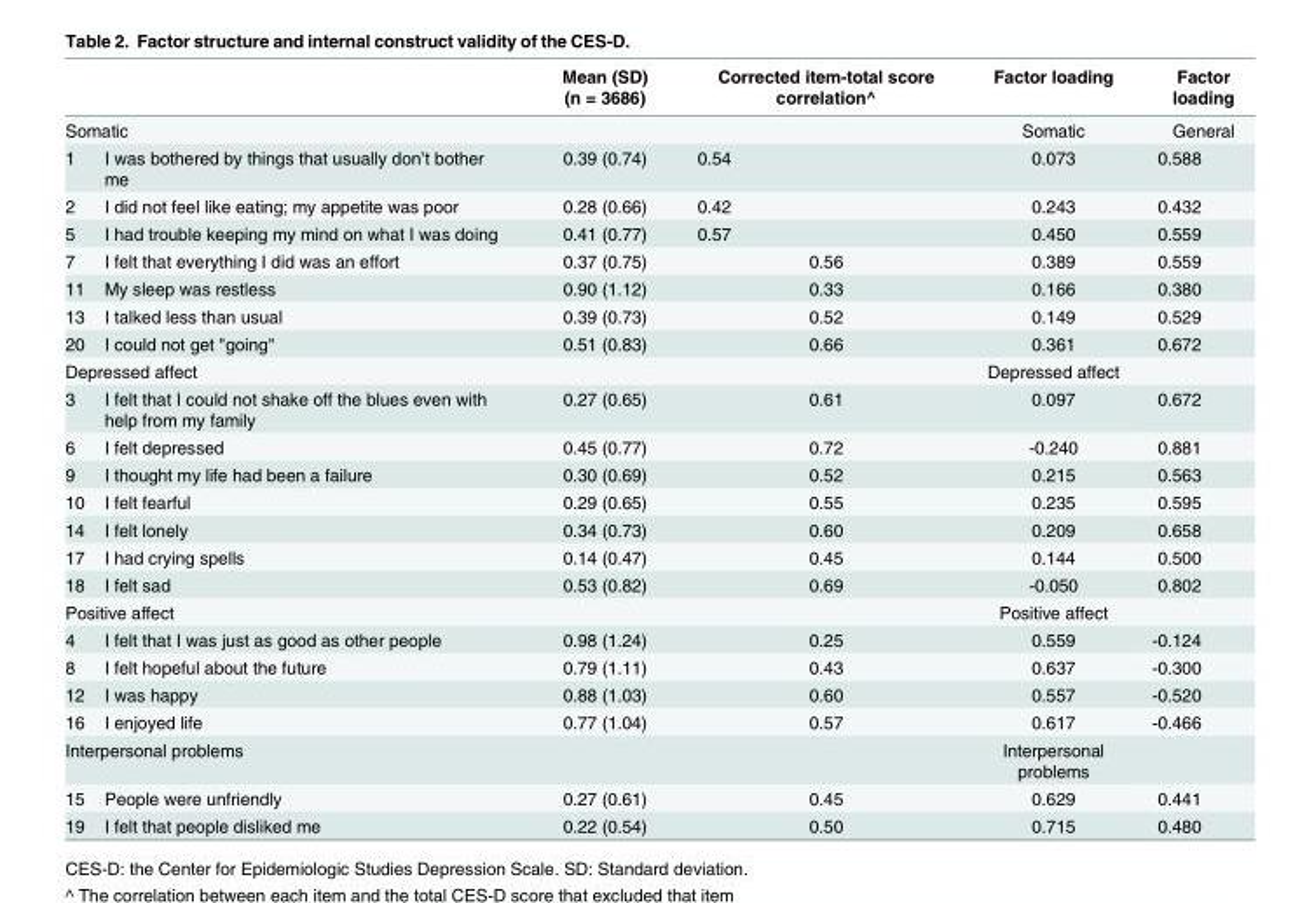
<table><thead><tr><td></td><td></td><td>Mean (SD) (n = 3686)</td><td>Corrected item-total score correlation^</td><td>Factor loading</td><td>Factor loading</td></tr></thead><tbody><tr><td colspan="2">Somatic</td><td></td><td></td><td>Somatic</td><td>General</td></tr><tr><td>1</td><td>I was bothered by things that usually don’t bother me</td><td>0.39 (0.74)</td><td>0.54</td><td>0.073</td><td>0.588</td></tr><tr><td>2</td><td>I did not feel like eating; my appetite was poor</td><td>0.28 (0.66)</td><td>0.42</td><td>0.243</td><td>0.432</td></tr><tr><td>5</td><td>I had trouble keeping my mind on what I was doing</td><td>0.41 (0.77)</td><td>0.57</td><td>0.450</td><td>0.559</td></tr><tr><td>7</td><td>I felt that everything I did was an effort</td><td>0.37 (0.75)</td><td>0.56</td><td>0.389</td><td>0.559</td></tr><tr><td>11</td><td>My sleep was restless</td><td>0.90 (1.12)</td><td>0.33</td><td>0.166</td><td>0.380</td></tr><tr><td>13</td><td>I talked less than usual</td><td>0.39 (0.73)</td><td>0.52</td><td>0.149</td><td>0.529</td></tr><tr><td>20</td><td>I could not get &quot;going&quot;</td><td>0.51 (0.83)</td><td>0.66</td><td>0.361</td><td>0.672</td></tr><tr><td colspan="2">Depressed affect</td><td></td><td></td><td>Depressed affect</td><td></td></tr><tr><td>3</td><td>I felt that I could not shake off the blues even with help from my family</td><td>0.27 (0.65)</td><td>0.61</td><td>0.097</td><td>0.672</td></tr><tr><td>6</td><td>I felt depressed</td><td>0.45 (0.77)</td><td>0.72</td><td>-0.240</td><td>0.881</td></tr><tr><td>9</td><td>I thought my life had been a failure</td><td>0.30 (0.69)</td><td>0.52</td><td>0.215</td><td>0.563</td></tr><tr><td>10</td><td>I felt fearful</td><td>0.29 (0.65)</td><td>0.55</td><td>0.235</td><td>0.595</td></tr><tr><td>14</td><td>I felt lonely</td><td>0.34 (0.73)</td><td>0.60</td><td>0.209</td><td>0.658</td></tr><tr><td>17</td><td>I had crying spells</td><td>0.14 (0.47)</td><td>0.45</td><td>0.144</td><td>0.500</td></tr><tr><td>18</td><td>I felt sad</td><td>0.53 (0.82)</td><td>0.69</td><td>-0.050</td><td>0.802</td></tr><tr><td colspan="2">Positive affect</td><td></td><td></td><td>Positive affect</td><td></td></tr><tr><td>4</td><td>I felt that I was just as good as other people</td><td>0.98 (1.24)</td><td>0.25</td><td>0.559</td><td>-0.124</td></tr><tr><td>8</td><td>I felt hopeful about the future</td><td>0.79 (1.11)</td><td>0.43</td><td>0.637</td><td>-0.300</td></tr><tr><td>12</td><td>I was happy</td><td>0.88 (1.03)</td><td>0.60</td><td>0.557</td><td>-0.520</td></tr><tr><td>16</td><td>I enjoyed life</td><td>0.77 (1.04)</td><td>0.57</td><td>0.617</td><td>-0.466</td></tr><tr><td colspan="2">Interpersonal problems</td><td></td><td></td><td>Interpersonal problems</td><td></td></tr><tr><td>15</td><td>People were unfriendly</td><td>0.27 (0.61)</td><td>0.45</td><td>0.629</td><td>0.441</td></tr><tr><td>19</td><td>I felt that people disliked me</td><td>0.22 (0.54)</td><td>0.50</td><td>0.715</td><td>0.480</td></tr></tbody></table>